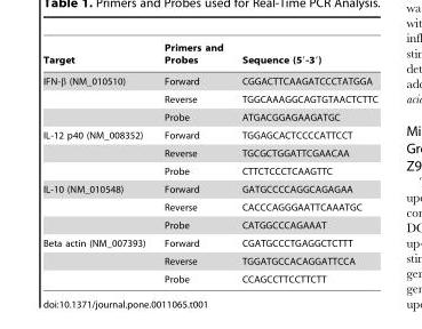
<table><thead><tr><td>Target</td><td>Primers and Probes</td><td>Sequence (5′-3′)</td></tr></thead><tbody><tr><td rowspan="3">IFN-β (NM_010510)</td><td>Forward</td><td>CGGACTTCAAGATCCCTATGGA</td></tr><tr><td>Reverse</td><td>TGGCAAAGGCAGTGTAACTCTTC</td></tr><tr><td>Probe</td><td>ATGACGGAGAAGATGC</td></tr><tr><td rowspan="3">IL-12 p40 (NM_008352)</td><td>Forward</td><td>TGGAGCACTCCCCATTCCT</td></tr><tr><td>Reverse</td><td>TGCGCTGGATTCGAACAA</td></tr><tr><td>Probe</td><td>CTTCTCCCTCAAGTTC</td></tr><tr><td rowspan="3">IL-10 (NM_010548)</td><td>Forward</td><td>GATGCCCCAGGCAGAGAA</td></tr><tr><td>Reverse</td><td>CACCCAGGGAATTCAAATGC</td></tr><tr><td>Probe</td><td>CATGGCCCAGAAAT</td></tr><tr><td rowspan="3">Beta actin (NM_007393)</td><td>Forward</td><td>CGATGCCCTGAGGCTCTTT</td></tr><tr><td>Reverse</td><td>TGGATGCCACAGGATTCCA</td></tr><tr><td>Probe</td><td>CCAGCCTTCCTTCTT</td></tr></tbody></table>